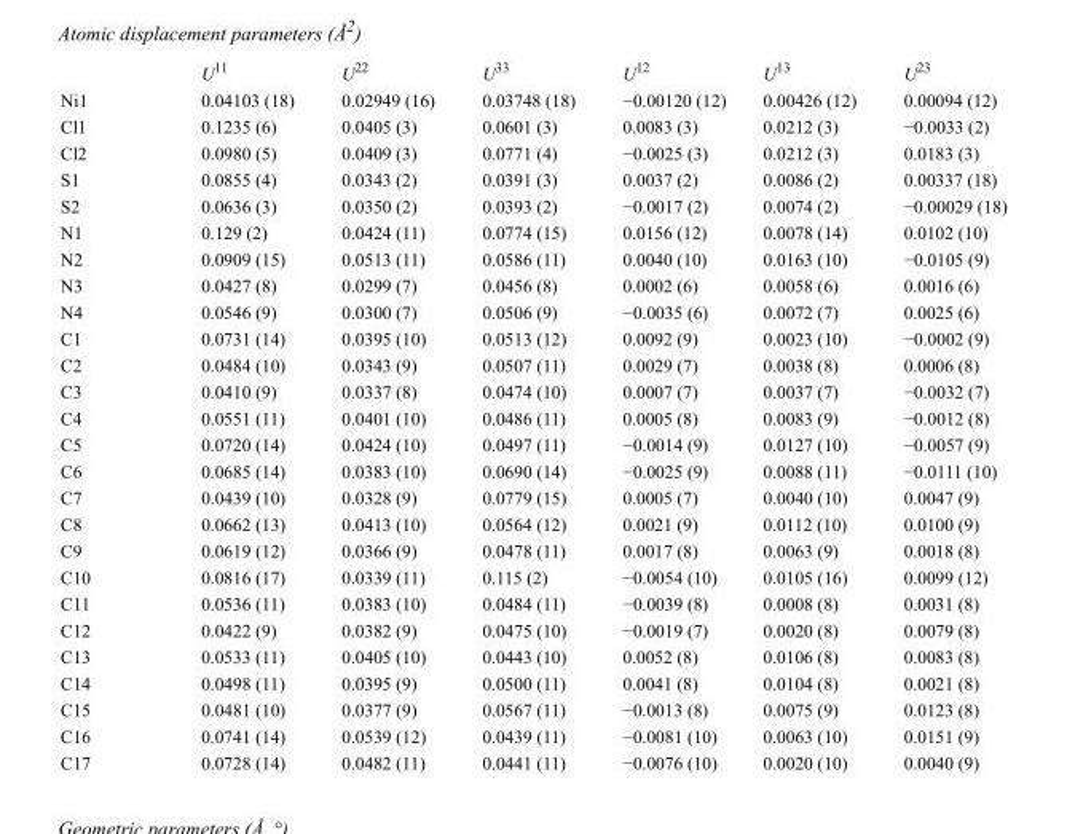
<table><thead><tr><td></td><td>U<sup>11</sup></td><td>U<sup>22</sup></td><td>U<sup>33</sup></td><td>U<sup>12</sup></td><td>U<sup>13</sup></td><td>U<sup>23</sup></td></tr></thead><tbody><tr><td>Ni1</td><td>0.04103 (18)</td><td>0.02949 (16)</td><td>0.03748 (18)</td><td>−0.00120 (12)</td><td>0.00426 (12)</td><td>0.00094 (12)</td></tr><tr><td>Cl1</td><td>0.1235 (6)</td><td>0.0405 (3)</td><td>0.0601 (3)</td><td>0.0083 (3)</td><td>0.0212 (3)</td><td>−0.0033 (2)</td></tr><tr><td>Cl2</td><td>0.0980 (5)</td><td>0.0409 (3)</td><td>0.0771 (4)</td><td>−0.0025 (3)</td><td>0.0212 (3)</td><td>0.0183 (3)</td></tr><tr><td>S1</td><td>0.0855 (4)</td><td>0.0343 (2)</td><td>0.0391 (3)</td><td>0.0037 (2)</td><td>0.0086 (2)</td><td>0.00337 (18)</td></tr><tr><td>S2</td><td>0.0636 (3)</td><td>0.0350 (2)</td><td>0.0393 (2)</td><td>−0.0017 (2)</td><td>0.0074 (2)</td><td>−0.00029 (18)</td></tr><tr><td>N1</td><td>0.129 (2)</td><td>0.0424 (11)</td><td>0.0774 (15)</td><td>0.0156 (12)</td><td>0.0078 (14)</td><td>0.0102 (10)</td></tr><tr><td>N2</td><td>0.0909 (15)</td><td>0.0513 (11)</td><td>0.0586 (11)</td><td>0.0040 (10)</td><td>0.0163 (10)</td><td>−0.0105 (9)</td></tr><tr><td>N3</td><td>0.0427 (8)</td><td>0.0299 (7)</td><td>0.0456 (8)</td><td>0.0002 (6)</td><td>0.0058 (6)</td><td>0.0016 (6)</td></tr><tr><td>N4</td><td>0.0546 (9)</td><td>0.0300 (7)</td><td>0.0506 (9)</td><td>−0.0035 (6)</td><td>0.0072 (7)</td><td>0.0025 (6)</td></tr><tr><td>C1</td><td>0.0731 (14)</td><td>0.0395 (10)</td><td>0.0513 (12)</td><td>0.0092 (9)</td><td>0.0023 (10)</td><td>−0.0002 (9)</td></tr><tr><td>C2</td><td>0.0484 (10)</td><td>0.0343 (9)</td><td>0.0507 (11)</td><td>0.0029 (7)</td><td>0.0038 (8)</td><td>0.0006 (8)</td></tr><tr><td>C3</td><td>0.0410 (9)</td><td>0.0337 (8)</td><td>0.0474 (10)</td><td>0.0007 (7)</td><td>0.0037 (7)</td><td>−0.0032 (7)</td></tr><tr><td>C4</td><td>0.0551 (11)</td><td>0.0401 (10)</td><td>0.0486 (11)</td><td>0.0005 (8)</td><td>0.0083 (9)</td><td>−0.0012 (8)</td></tr><tr><td>C5</td><td>0.0720 (14)</td><td>0.0424 (10)</td><td>0.0497 (11)</td><td>−0.0014 (9)</td><td>0.0127 (10)</td><td>−0.0057 (9)</td></tr><tr><td>C6</td><td>0.0685 (14)</td><td>0.0383 (10)</td><td>0.0690 (14)</td><td>−0.0025 (9)</td><td>0.0088 (11)</td><td>−0.0111 (10)</td></tr><tr><td>C7</td><td>0.0439 (10)</td><td>0.0328 (9)</td><td>0.0779 (15)</td><td>0.0005 (7)</td><td>0.0040 (10)</td><td>0.0047 (9)</td></tr><tr><td>C8</td><td>0.0662 (13)</td><td>0.0413 (10)</td><td>0.0564 (12)</td><td>0.0021 (9)</td><td>0.0112 (10)</td><td>0.0100 (9)</td></tr><tr><td>C9</td><td>0.0619 (12)</td><td>0.0366 (9)</td><td>0.0478 (11)</td><td>0.0017 (8)</td><td>0.0063 (9)</td><td>0.0018 (8)</td></tr><tr><td>C10</td><td>0.0816 (17)</td><td>0.0339 (11)</td><td>0.115 (2)</td><td>−0.0054 (10)</td><td>0.0105 (16)</td><td>0.0099 (12)</td></tr><tr><td>C11</td><td>0.0536 (11)</td><td>0.0383 (10)</td><td>0.0484 (11)</td><td>−0.0039 (8)</td><td>0.0008 (8)</td><td>0.0031 (8)</td></tr><tr><td>C12</td><td>0.0422 (9)</td><td>0.0382 (9)</td><td>0.0475 (10)</td><td>−0.0019 (7)</td><td>0.0020 (8)</td><td>0.0079 (8)</td></tr><tr><td>C13</td><td>0.0533 (11)</td><td>0.0405 (10)</td><td>0.0443 (10)</td><td>0.0052 (8)</td><td>0.0106 (8)</td><td>0.0083 (8)</td></tr><tr><td>C14</td><td>0.0498 (11)</td><td>0.0395 (9)</td><td>0.0500 (11)</td><td>0.0041 (8)</td><td>0.0104 (8)</td><td>0.0021 (8)</td></tr><tr><td>C15</td><td>0.0481 (10)</td><td>0.0377 (9)</td><td>0.0567 (11)</td><td>−0.0013 (8)</td><td>0.0075 (9)</td><td>0.0123 (8)</td></tr><tr><td>C16</td><td>0.0741 (14)</td><td>0.0539 (12)</td><td>0.0439 (11)</td><td>−0.0081 (10)</td><td>0.0063 (10)</td><td>0.0151 (9)</td></tr><tr><td>C17</td><td>0.0728 (14)</td><td>0.0482 (11)</td><td>0.0441 (11)</td><td>−0.0076 (10)</td><td>0.0020 (10)</td><td>0.0040 (9)</td></tr></tbody></table>